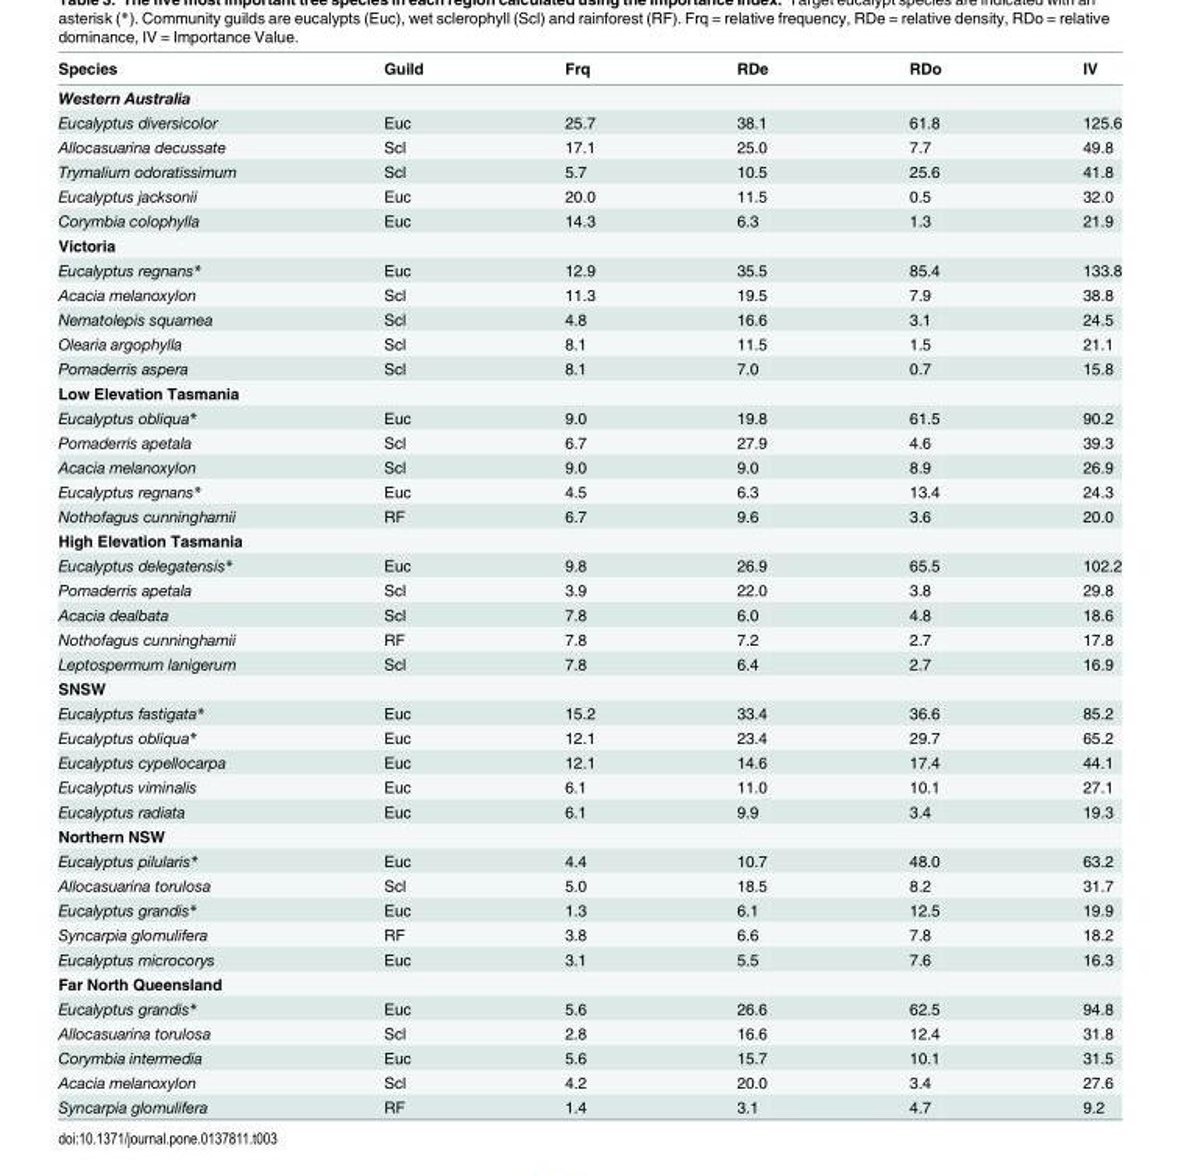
<table><thead><tr><td>Species</td><td>Guild</td><td>Frq</td><td>RDe</td><td>RDo</td><td>IV</td></tr></thead><tbody><tr><td colspan="6">Western Australia</td></tr><tr><td>Eucalyptus diversicolor</td><td>Euc</td><td>25.7</td><td>38.1</td><td>61.8</td><td>125.6</td></tr><tr><td>Allocasuarina decussate</td><td>Scl</td><td>17.1</td><td>25.0</td><td>7.7</td><td>49.8</td></tr><tr><td>Trymalium odoratissimum</td><td>Scl</td><td>5.7</td><td>10.5</td><td>25.6</td><td>41.8</td></tr><tr><td>Eucalyptus jacksonii</td><td>Euc</td><td>20.0</td><td>11.5</td><td>0.5</td><td>32.0</td></tr><tr><td>Corymbia colophylla</td><td>Euc</td><td>14.3</td><td>6.3</td><td>1.3</td><td>21.9</td></tr><tr><td colspan="6">Victoria</td></tr><tr><td>Eucalyptus regnans*</td><td>Euc</td><td>12.9</td><td>35.5</td><td>85.4</td><td>133.8</td></tr><tr><td>Acacia melanoxylon</td><td>Scl</td><td>11.3</td><td>19.5</td><td>7.9</td><td>38.8</td></tr><tr><td>Nematolepis squamea</td><td>Scl</td><td>4.8</td><td>16.6</td><td>3.1</td><td>24.5</td></tr><tr><td>Olearia argophylla</td><td>Scl</td><td>8.1</td><td>11.5</td><td>1.5</td><td>21.1</td></tr><tr><td>Pomaderris aspera</td><td>Scl</td><td>8.1</td><td>7.0</td><td>0.7</td><td>15.8</td></tr><tr><td colspan="6">Low Elevation Tasmania</td></tr><tr><td>Eucalyptus obliqua*</td><td>Euc</td><td>9.0</td><td>19.8</td><td>61.5</td><td>90.2</td></tr><tr><td>Pomaderris apetala</td><td>Scl</td><td>6.7</td><td>27.9</td><td>4.6</td><td>39.3</td></tr><tr><td>Acacia melanoxylon</td><td>Scl</td><td>9.0</td><td>9.0</td><td>8.9</td><td>26.9</td></tr><tr><td>Eucalyptus regnans*</td><td>Euc</td><td>4.5</td><td>6.3</td><td>13.4</td><td>24.3</td></tr><tr><td>Nothofagus cunninghamii</td><td>RF</td><td>6.7</td><td>9.6</td><td>3.6</td><td>20.0</td></tr><tr><td colspan="6">High Elevation Tasmania</td></tr><tr><td>Eucalyptus delegatensis*</td><td>Euc</td><td>9.8</td><td>26.9</td><td>65.5</td><td>102.2</td></tr><tr><td>Pomaderris apetala</td><td>Scl</td><td>3.9</td><td>22.0</td><td>3.8</td><td>29.8</td></tr><tr><td>Acacia dealbata</td><td>Scl</td><td>7.8</td><td>6.0</td><td>4.8</td><td>18.6</td></tr><tr><td>Nothofagus cunninghamii</td><td>RF</td><td>7.8</td><td>7.2</td><td>2.7</td><td>17.8</td></tr><tr><td>Leptospermum lanigerum</td><td>Scl</td><td>7.8</td><td>6.4</td><td>2.7</td><td>16.9</td></tr><tr><td colspan="6">SNSW</td></tr><tr><td>Eucalyptus fastigata*</td><td>Euc</td><td>15.2</td><td>33.4</td><td>36.6</td><td>85.2</td></tr><tr><td>Eucalyptus obliqua*</td><td>Euc</td><td>12.1</td><td>23.4</td><td>29.7</td><td>65.2</td></tr><tr><td>Eucalyptus cypellocarpa</td><td>Euc</td><td>12.1</td><td>14.6</td><td>17.4</td><td>44.1</td></tr><tr><td>Eucalyptus viminalis</td><td>Euc</td><td>6.1</td><td>11.0</td><td>10.1</td><td>27.1</td></tr><tr><td>Eucalyptus radiata</td><td>Euc</td><td>6.1</td><td>9.9</td><td>3.4</td><td>19.3</td></tr><tr><td colspan="6">Northern NSW</td></tr><tr><td>Eucalyptus pilularis*</td><td>Euc</td><td>4.4</td><td>10.7</td><td>48.0</td><td>63.2</td></tr><tr><td>Allocasuarina torulosa</td><td>Scl</td><td>5.0</td><td>18.5</td><td>8.2</td><td>31.7</td></tr><tr><td>Eucalyptus grandis*</td><td>Euc</td><td>1.3</td><td>6.1</td><td>12.5</td><td>19.9</td></tr><tr><td>Syncarpia glomulifera</td><td>RF</td><td>3.8</td><td>6.6</td><td>7.8</td><td>18.2</td></tr><tr><td>Eucalyptus microcorys</td><td>Euc</td><td>3.1</td><td>5.5</td><td>7.6</td><td>16.3</td></tr><tr><td colspan="6">Far North Queensland</td></tr><tr><td>Eucalyptus grandis*</td><td>Euc</td><td>5.6</td><td>26.6</td><td>62.5</td><td>94.8</td></tr><tr><td>Allocasuarina torulosa</td><td>Scl</td><td>2.8</td><td>16.6</td><td>12.4</td><td>31.8</td></tr><tr><td>Corymbia intermedia</td><td>Euc</td><td>5.6</td><td>15.7</td><td>10.1</td><td>31.5</td></tr><tr><td>Acacia melanoxylon</td><td>Scl</td><td>4.2</td><td>20.0</td><td>3.4</td><td>27.6</td></tr><tr><td>Syncarpia glomulifera</td><td>RF</td><td>1.4</td><td>3.1</td><td>4.7</td><td>9.2</td></tr></tbody></table>